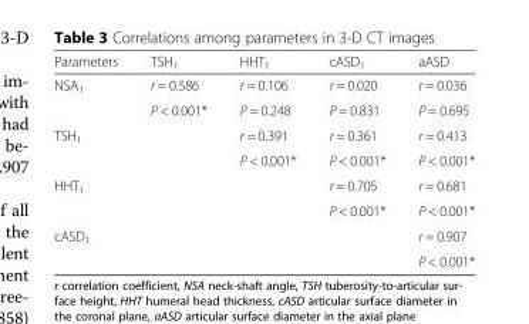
<table><thead><tr><td>Parameters</td><td>TSH<sub>1</sub></td><td>HHT<sub>1</sub></td><td>cASD<sub>1</sub></td><td>aASD</td></tr></thead><tbody><tr><td rowspan="2">NSA<sub>1</sub></td><td>r = 0.586</td><td>r = 0.106</td><td>r = 0.020</td><td>r = 0.036</td></tr><tr><td>P &lt; 0.001*</td><td>P = 0.248</td><td>P = 0.831</td><td>P = 0.695</td></tr><tr><td rowspan="2">TSH<sub>1</sub></td><td rowspan="2"></td><td>r = 0.391</td><td>r = 0.361</td><td>r = 0.413</td></tr><tr><td>P &lt; 0.001*</td><td>P &lt; 0.001*</td><td>P &lt; 0.001*</td></tr><tr><td rowspan="2">HHT<sub>1</sub></td><td rowspan="2"></td><td rowspan="2"></td><td>r = 0.705</td><td>r = 0.681</td></tr><tr><td>P &lt; 0.001*</td><td>P &lt; 0.001*</td></tr><tr><td rowspan="2">cASD<sub>1</sub></td><td rowspan="2"></td><td rowspan="2"></td><td rowspan="2"></td><td>r = 0.907</td></tr><tr><td>P &lt; 0.001*</td></tr></tbody></table>